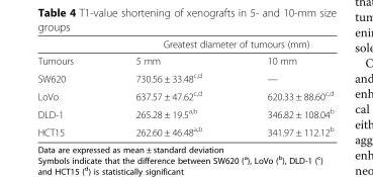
<table><thead><tr><td rowspan="2">Tumours</td><td colspan="2">Greatest diameter of tumours (mm)</td></tr><tr><td>5 mm</td><td>10 mm</td></tr></thead><tbody><tr><td>SW620</td><td>730.56 ± 33.48<sup>c,d</sup></td><td>—</td></tr><tr><td>LoVo</td><td>637.57 ± 47.62<sup>c,d</sup></td><td>620.33 ± 88.60<sup>c,d</sup></td></tr><tr><td>DLD-1</td><td>265.28 ± 19.5<sup>a,b</sup></td><td>346.82 ± 108.04<sup>b</sup></td></tr><tr><td>HCT15</td><td>262.60 ± 46.48<sup>a,b</sup></td><td>341.97 ± 112.12<sup>b</sup></td></tr></tbody></table>